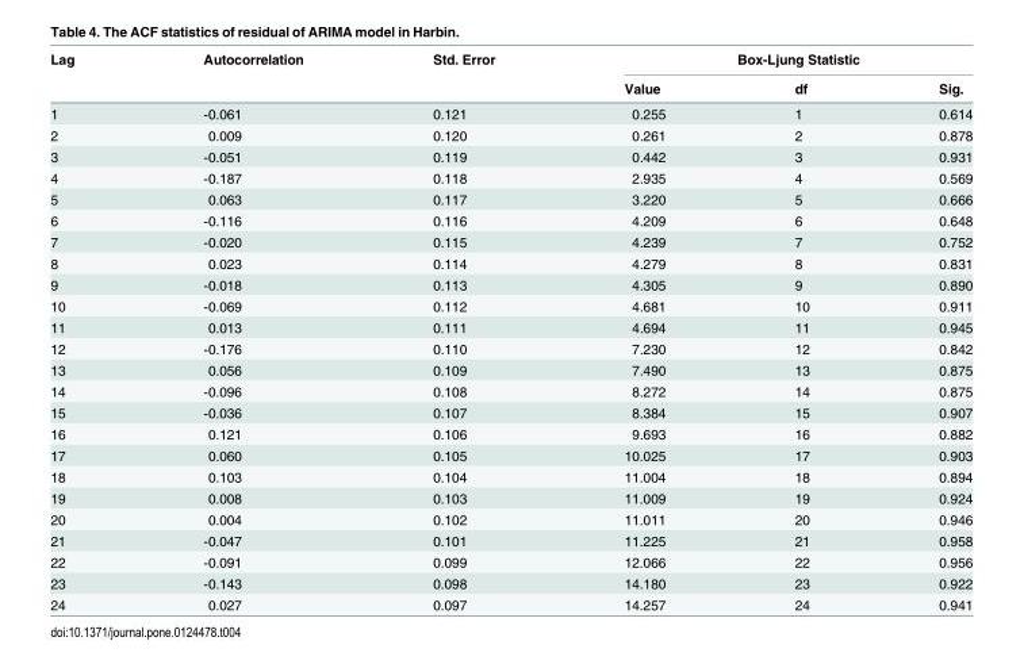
<table><thead><tr><td rowspan="2">Lag</td><td rowspan="2">Autocorrelation</td><td rowspan="2">Std. Error</td><td colspan="3">Box-Ljung Statistic</td></tr><tr><td>Value</td><td>df</td><td>Sig.</td></tr></thead><tbody><tr><td>1</td><td>-0.061</td><td>0.121</td><td>0.255</td><td>1</td><td>0.614</td></tr><tr><td>2</td><td>0.009</td><td>0.120</td><td>0.261</td><td>2</td><td>0.878</td></tr><tr><td>3</td><td>-0.051</td><td>0.119</td><td>0.442</td><td>3</td><td>0.931</td></tr><tr><td>4</td><td>-0.187</td><td>0.118</td><td>2.935</td><td>4</td><td>0.569</td></tr><tr><td>5</td><td>0.063</td><td>0.117</td><td>3.220</td><td>5</td><td>0.666</td></tr><tr><td>6</td><td>-0.116</td><td>0.116</td><td>4.209</td><td>6</td><td>0.648</td></tr><tr><td>7</td><td>-0.020</td><td>0.115</td><td>4.239</td><td>7</td><td>0.752</td></tr><tr><td>8</td><td>0.023</td><td>0.114</td><td>4.279</td><td>8</td><td>0.831</td></tr><tr><td>9</td><td>-0.018</td><td>0.113</td><td>4.305</td><td>9</td><td>0.890</td></tr><tr><td>10</td><td>-0.069</td><td>0.112</td><td>4.681</td><td>10</td><td>0.911</td></tr><tr><td>11</td><td>0.013</td><td>0.111</td><td>4.694</td><td>11</td><td>0.945</td></tr><tr><td>12</td><td>-0.176</td><td>0.110</td><td>7.230</td><td>12</td><td>0.842</td></tr><tr><td>13</td><td>0.056</td><td>0.109</td><td>7.490</td><td>13</td><td>0.875</td></tr><tr><td>14</td><td>-0.096</td><td>0.108</td><td>8.272</td><td>14</td><td>0.875</td></tr><tr><td>15</td><td>-0.036</td><td>0.107</td><td>8.384</td><td>15</td><td>0.907</td></tr><tr><td>16</td><td>0.121</td><td>0.106</td><td>9.693</td><td>16</td><td>0.882</td></tr><tr><td>17</td><td>0.060</td><td>0.105</td><td>10.025</td><td>17</td><td>0.903</td></tr><tr><td>18</td><td>0.103</td><td>0.104</td><td>11.004</td><td>18</td><td>0.894</td></tr><tr><td>19</td><td>0.008</td><td>0.103</td><td>11.009</td><td>19</td><td>0.924</td></tr><tr><td>20</td><td>0.004</td><td>0.102</td><td>11.011</td><td>20</td><td>0.946</td></tr><tr><td>21</td><td>-0.047</td><td>0.101</td><td>11.225</td><td>21</td><td>0.958</td></tr><tr><td>22</td><td>-0.091</td><td>0.099</td><td>12.066</td><td>22</td><td>0.956</td></tr><tr><td>23</td><td>-0.143</td><td>0.098</td><td>14.180</td><td>23</td><td>0.922</td></tr><tr><td>24</td><td>0.027</td><td>0.097</td><td>14.257</td><td>24</td><td>0.941</td></tr></tbody></table>